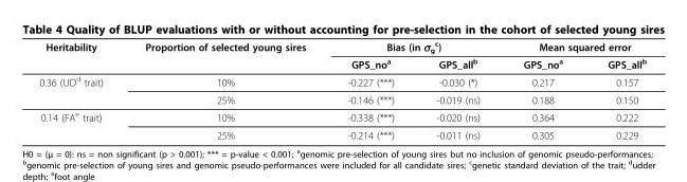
<table><thead><tr><td rowspan="2">Heritability</td><td rowspan="2">Proportion of selected young sires</td><td colspan="2">Bias (in σ<sub>g</sub> <sup>c</sup>)</td><td colspan="2">Mean squared error</td></tr><tr><td>GPS_no<sup>a</sup></td><td>GPS_all<sup>b</sup></td><td>GPS_no<sup>a</sup></td><td>GPS_all<sup>b</sup></td></tr></thead><tbody><tr><td rowspan="2">0.36 (UD<sup>d</sup> trait)</td><td>10%</td><td>-0.227 (***)</td><td>-0.030 (*)</td><td>0.217</td><td>0.157</td></tr><tr><td>25%</td><td>-0.146 (***)</td><td>-0.019 (ns)</td><td>0.188</td><td>0.150</td></tr><tr><td rowspan="2">0.14 (FA<sup>e</sup> trait)</td><td>10%</td><td>-0.338 (***)</td><td>-0.020 (ns)</td><td>0.364</td><td>0.222</td></tr><tr><td>25%</td><td>-0.214 (***)</td><td>-0.011 (ns)</td><td>0.305</td><td>0.229</td></tr></tbody></table>